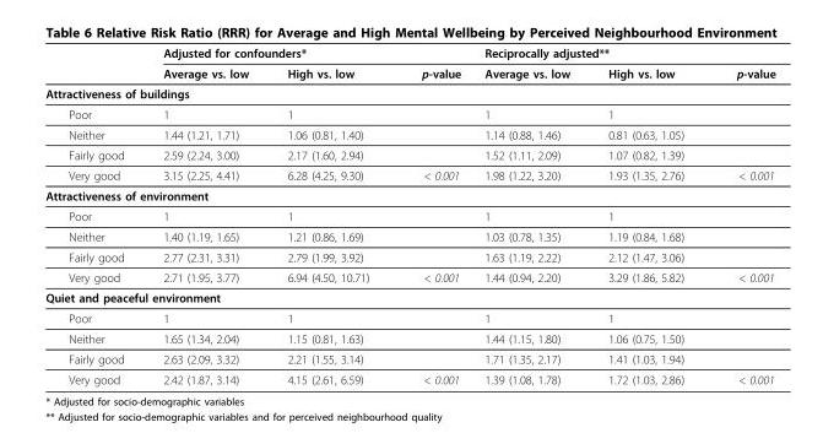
<table><thead><tr><td rowspan="2"></td><td colspan="3">Adjusted for confounders*</td><td colspan="3">Reciprocally adjusted**</td></tr><tr><td>Average vs. low</td><td>High vs. low</td><td>p-value</td><td>Average vs. low</td><td>High vs. low</td><td>p-value</td></tr></thead><tbody><tr><td colspan="7">Attractiveness of buildings</td></tr><tr><td>Poor</td><td>1</td><td>1</td><td></td><td>1</td><td>1</td><td></td></tr><tr><td>Neither</td><td>1.44 (1.21, 1.71)</td><td>1.06 (0.81, 1.40)</td><td></td><td>1.14 (0.88, 1.46)</td><td>0.81 (0.63, 1.05)</td><td></td></tr><tr><td>Fairly good</td><td>2.59 (2.24, 3.00)</td><td>2.17 (1.60, 2.94)</td><td></td><td>1.52 (1.11, 2.09)</td><td>1.07 (0.82, 1.39)</td><td></td></tr><tr><td>Very good</td><td>3.15 (2.25, 4.41)</td><td>6.28 (4.25, 9.30)</td><td>&lt; 0.001</td><td>1.98 (1.22, 3.20)</td><td>1.93 (1.35, 2.76)</td><td>&lt; 0.001</td></tr><tr><td colspan="7">Attractiveness of environment</td></tr><tr><td>Poor</td><td>1</td><td>1</td><td></td><td>1</td><td>1</td><td></td></tr><tr><td>Neither</td><td>1.40 (1.19, 1.65)</td><td>1.21 (0.86, 1.69)</td><td></td><td>1.03 (0.78, 1.35)</td><td>1.19 (0.84, 1.68)</td><td></td></tr><tr><td>Fairly good</td><td>2.77 (2.31, 3.31)</td><td>2.79 (1.99, 3.92)</td><td></td><td>1.63 (1.19, 2.22)</td><td>2.12 (1.47, 3.06)</td><td></td></tr><tr><td>Very good</td><td>2.71 (1.95, 3.77)</td><td>6.94 (4.50, 10.71)</td><td>&lt; 0.001</td><td>1.44 (0.94, 2.20)</td><td>3.29 (1.86, 5.82)</td><td>&lt; 0.001</td></tr><tr><td colspan="7">Quiet and peaceful environment</td></tr><tr><td>Poor</td><td>1</td><td>1</td><td></td><td>1</td><td>1</td><td></td></tr><tr><td>Neither</td><td>1.65 (1.34, 2.04)</td><td>1.15 (0.81, 1.63)</td><td></td><td>1.44 (1.15, 1.80)</td><td>1.06 (0.75, 1.50)</td><td></td></tr><tr><td>Fairly good</td><td>2.63 (2.09, 3.32)</td><td>2.21 (1.55, 3.14)</td><td></td><td>1.71 (1.35, 2.17)</td><td>1.41 (1.03, 1.94)</td><td></td></tr><tr><td>Very good</td><td>2.42 (1.87, 3.14)</td><td>4.15 (2.61, 6.59)</td><td>&lt; 0.001</td><td>1.39 (1.08, 1.78)</td><td>1.72 (1.03, 2.86)</td><td>&lt; 0.001</td></tr></tbody></table>